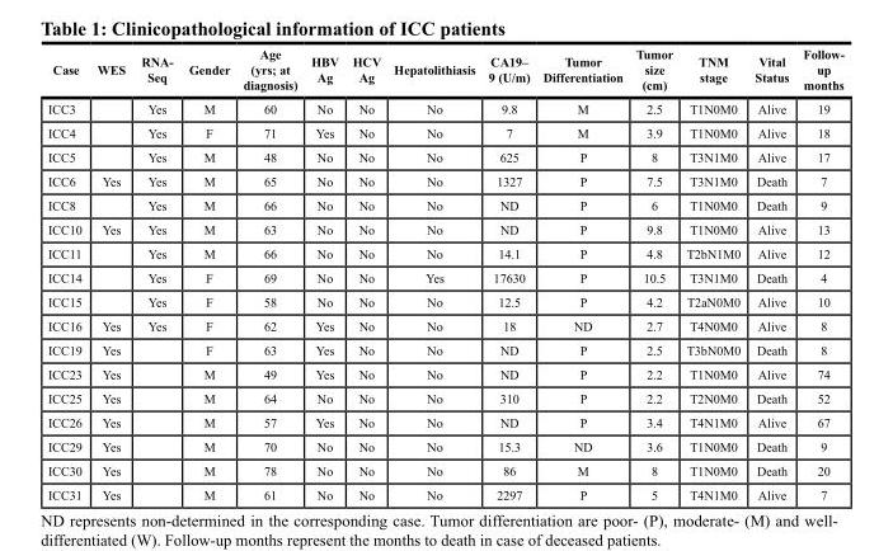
<table><thead><tr><td>Case</td><td>WES</td><td>RNA- Seq</td><td>Gender</td><td>Age (yrs; at diagnosis)</td><td>HBV Ag</td><td>HCV Ag</td><td>Hepatolithiasis</td><td>CA19– 9 (U/m)</td><td>Tumor Differentiation</td><td>Tumor size (cm)</td><td>TNM stage</td><td>Vital Status</td><td>Follow- up months</td></tr></thead><tbody><tr><td>ICC3</td><td></td><td>Yes</td><td>M</td><td>60</td><td>No</td><td>No</td><td>No</td><td>9.8</td><td>M</td><td>2.5</td><td>T1N0M0</td><td>Alive</td><td>19</td></tr><tr><td>ICC4</td><td></td><td>Yes</td><td>F</td><td>71</td><td>Yes</td><td>No</td><td>No</td><td>7</td><td>M</td><td>3.9</td><td>T1N0M0</td><td>Alive</td><td>18</td></tr><tr><td>ICC5</td><td></td><td>Yes</td><td>M</td><td>48</td><td>No</td><td>No</td><td>No</td><td>625</td><td>P</td><td>8</td><td>T3N1M0</td><td>Alive</td><td>17</td></tr><tr><td>ICC6</td><td>Yes</td><td>Yes</td><td>M</td><td>65</td><td>No</td><td>No</td><td>No</td><td>1327</td><td>P</td><td>7.5</td><td>T3N1M0</td><td>Death</td><td>7</td></tr><tr><td>ICC8</td><td></td><td>Yes</td><td>M</td><td>66</td><td>No</td><td>No</td><td>No</td><td>ND</td><td>P</td><td>6</td><td>T1N0M0</td><td>Death</td><td>9</td></tr><tr><td>ICC10</td><td>Yes</td><td>Yes</td><td>M</td><td>63</td><td>No</td><td>No</td><td>No</td><td>ND</td><td>P</td><td>9.8</td><td>T1N0M0</td><td>Alive</td><td>13</td></tr><tr><td>ICC11</td><td></td><td>Yes</td><td>M</td><td>66</td><td>No</td><td>No</td><td>No</td><td>14.1</td><td>P</td><td>4.8</td><td>T2bN1M0</td><td>Alive</td><td>12</td></tr><tr><td>ICC14</td><td></td><td>Yes</td><td>F</td><td>69</td><td>No</td><td>No</td><td>Yes</td><td>17630</td><td>P</td><td>10.5</td><td>T3N1M0</td><td>Death</td><td>4</td></tr><tr><td>ICC15</td><td></td><td>Yes</td><td>F</td><td>58</td><td>No</td><td>No</td><td>No</td><td>12.5</td><td>P</td><td>4.2</td><td>T2aN0M0</td><td>Alive</td><td>10</td></tr><tr><td>ICC16</td><td>Yes</td><td>Yes</td><td>F</td><td>62</td><td>Yes</td><td>No</td><td>No</td><td>18</td><td>ND</td><td>2.7</td><td>T4N0M0</td><td>Alive</td><td>8</td></tr><tr><td>ICC19</td><td>Yes</td><td></td><td>F</td><td>63</td><td>Yes</td><td>No</td><td>No</td><td>ND</td><td>P</td><td>2.5</td><td>T3bN0M0</td><td>Death</td><td>8</td></tr><tr><td>ICC23</td><td>Yes</td><td></td><td>M</td><td>49</td><td>Yes</td><td>No</td><td>No</td><td>ND</td><td>P</td><td>2.2</td><td>T1N0M0</td><td>Alive</td><td>74</td></tr><tr><td>ICC25</td><td>Yes</td><td></td><td>M</td><td>64</td><td>No</td><td>No</td><td>No</td><td>310</td><td>P</td><td>2.2</td><td>T2N0M0</td><td>Death</td><td>52</td></tr><tr><td>ICC26</td><td>Yes</td><td></td><td>M</td><td>57</td><td>Yes</td><td>No</td><td>No</td><td>ND</td><td>P</td><td>3.4</td><td>T4N1M0</td><td>Alive</td><td>67</td></tr><tr><td>ICC29</td><td>Yes</td><td></td><td>M</td><td>70</td><td>No</td><td>No</td><td>No</td><td>15.3</td><td>ND</td><td>3.6</td><td>T1N0M0</td><td>Death</td><td>9</td></tr><tr><td>ICC30</td><td>Yes</td><td></td><td>M</td><td>78</td><td>No</td><td>No</td><td>No</td><td>86</td><td>M</td><td>8</td><td>T1N0M0</td><td>Death</td><td>20</td></tr><tr><td>ICC31</td><td>Yes</td><td></td><td>M</td><td>61</td><td>No</td><td>No</td><td>No</td><td>2297</td><td>P</td><td>5</td><td>T4N1M0</td><td>Alive</td><td>7</td></tr></tbody></table>